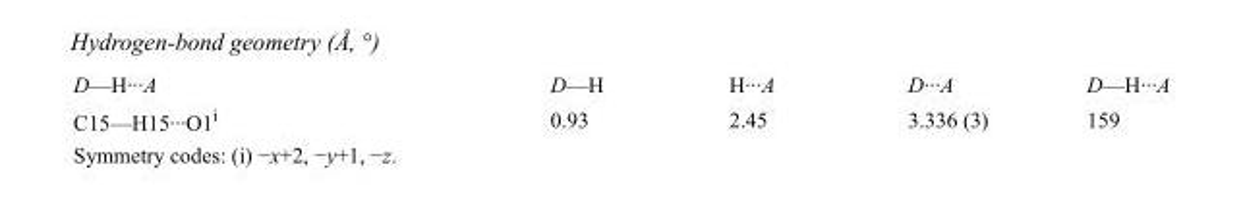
<table><tbody><tr><td>D—H···A</td><td>D—H</td><td>H···A</td><td>D···A</td><td>D—H···A</td></tr><tr><td>C15—H15···O1<sup>i</sup></td><td>0.93</td><td>2.45</td><td>3.336 (3)</td><td>159</td></tr></tbody></table>